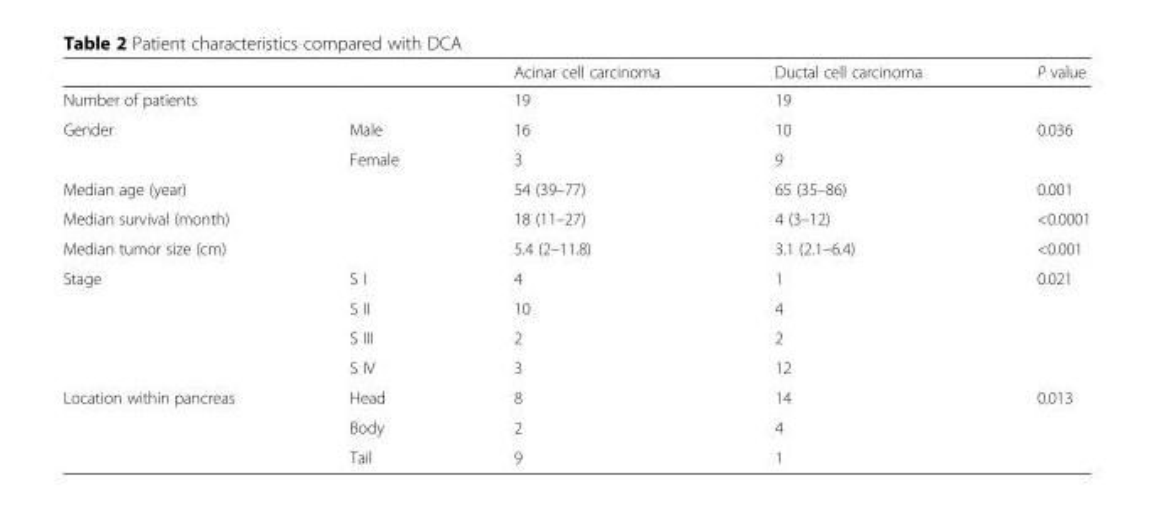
<table><thead><tr><td></td><td></td><td>Acinar cell carcinoma</td><td>Ductal cell carcinoma</td><td>P value</td></tr></thead><tbody><tr><td>Number of patients</td><td></td><td>19</td><td>19</td><td></td></tr><tr><td rowspan="2">Gender</td><td>Male</td><td>16</td><td>10</td><td>0.036</td></tr><tr><td>Female</td><td>3</td><td>9</td><td></td></tr><tr><td>Median age (year)</td><td></td><td>54 (39–77)</td><td>65 (35–86)</td><td>0.001</td></tr><tr><td>Median survival (month)</td><td></td><td>18 (11–27)</td><td>4 (3–12)</td><td>&lt;0.0001</td></tr><tr><td>Median tumor size (cm)</td><td></td><td>5.4 (2–11.8)</td><td>3.1 (2.1–6.4)</td><td>&lt;0.001</td></tr><tr><td rowspan="4">Stage</td><td>S I</td><td>4</td><td>1</td><td>0.021</td></tr><tr><td>S II</td><td>10</td><td>4</td><td></td></tr><tr><td>S III</td><td>2</td><td>2</td><td></td></tr><tr><td>S IV</td><td>3</td><td>12</td><td></td></tr><tr><td rowspan="3">Location within pancreas</td><td>Head</td><td>8</td><td>14</td><td>0.013</td></tr><tr><td>Body</td><td>2</td><td>4</td><td></td></tr><tr><td>Tail</td><td>9</td><td>1</td><td></td></tr></tbody></table>